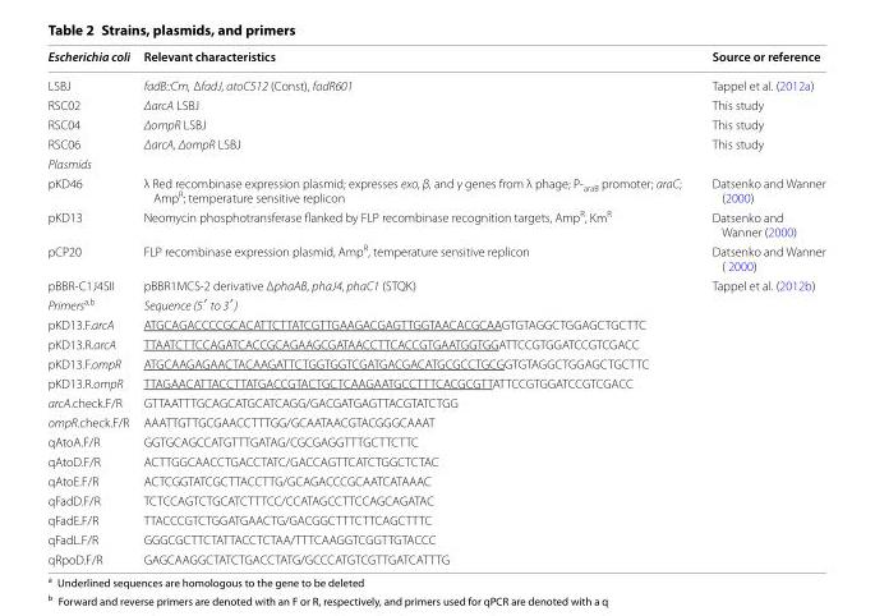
<table><thead><tr><td>Escherichia coli</td><td>Relevant characteristics</td><td>Source or reference</td></tr></thead><tbody><tr><td>LSBJ</td><td>fadB::Cm, ΔfadJ, atoC512 (Const), fadR601</td><td>Tappel et al. (2012a)</td></tr><tr><td>RSC02</td><td>ΔarcA LSBJ</td><td>This study</td></tr><tr><td>RSC04</td><td>ΔompR LSBJ</td><td>This study</td></tr><tr><td>RSC06</td><td>ΔarcA, ΔompR LSBJ</td><td>This study</td></tr><tr><td colspan="3">Plasmids</td></tr><tr><td>pKD46</td><td>λ Red recombinase expression plasmid; expresses exo, β, and γ genes from λ phage; P-<sub>araB</sub> promoter; araC; Amp<sup>R</sup>; temperature sensitive replicon</td><td>Datsenko and Wanner (2000)</td></tr><tr><td>pKD13</td><td>Neomycin phosphotransferase flanked by FLP recombinase recognition targets, Amp<sup>R</sup>, Km<sup>R</sup></td><td>Datsenko and Wanner (2000)</td></tr><tr><td>pCP20</td><td>FLP recombinase expression plasmid, Amp<sup>R</sup>, temperature sensitive replicon</td><td>Datsenko and Wanner ( 2000)</td></tr><tr><td>pBBR-C1J4SII</td><td>pBBR1MCS-2 derivative ΔphaAB, phaJ4, phaC1 (STQK)</td><td>Tappel et al. (2012b)</td></tr><tr><td>Primers<sup>a,b</sup></td><td colspan="2">Sequence (5′ to 3′)</td></tr><tr><td>pKD13.F.arcA</td><td colspan="2">ATGCAGACCCCGCACATTCTTATCGTTGAAGACGAGTTGGTAACACGCAAGTGTAGGCTGGAGCTGCTTC</td></tr><tr><td>pKD13.R.arcA</td><td colspan="2">TTAATCTTCCAGATCACCGCAGAAGCGATAACCTTCACCGTGAATGGTGGATTCCGTGGATCCGTCGACC</td></tr><tr><td>pKD13.F.ompR</td><td colspan="2">ATGCAAGAGAACTACAAGATTCTGGTGGTCGATGACGACATGCGCCTGCGGTGTAGGCTGGAGCTGCTTC</td></tr><tr><td>pKD13.R.ompR</td><td colspan="2">TTAGAACATTACCTTATGACCGTACTGCTCAAGAATGCCTTTCACGCGTTATTCCGTGGATCCGTCGACC</td></tr><tr><td>arcA.check.F/R</td><td colspan="2">GTTAATTTGCAGCATGCATCAGG/GACGATGAGTTACGTATCTGG</td></tr><tr><td>ompR.check.F/R</td><td colspan="2">AAATTGTTGCGAACCTTTGG/GCAATAACGTACGGGCAAAT</td></tr><tr><td>qAtoA.F/R</td><td colspan="2">GGTGCAGCCATGTTTGATAG/CGCGAGGTTTGCTTCTTC</td></tr><tr><td>qAtoD.F/R</td><td colspan="2">ACTTGGCAACCTGACCTATC/GACCAGTTCATCTGGCTCTAC</td></tr><tr><td>qAtoE.F/R</td><td colspan="2">ACTCGGTATCGCTTACCTTG/GCAGACCCGCAATCATAAAC</td></tr><tr><td>qFadD.F/R</td><td colspan="2">TCTCCAGTCTGCATCTTTCC/CCATAGCCTTCCAGCAGATAC</td></tr><tr><td>qFadE.F/R</td><td colspan="2">TTACCCGTCTGGATGAACTG/GACGGCTTTCTTCAGCTTTC</td></tr><tr><td>qFadL.F/R</td><td colspan="2">GGGCGCTTCTATTACCTCTAA/TTTCAAGGTCGGTTGTACCC</td></tr><tr><td>qRpoD.F/R</td><td colspan="2">GAGCAAGGCTATCTGACCTATG/GCCCATGTCGTTGATCATTTG</td></tr></tbody></table>